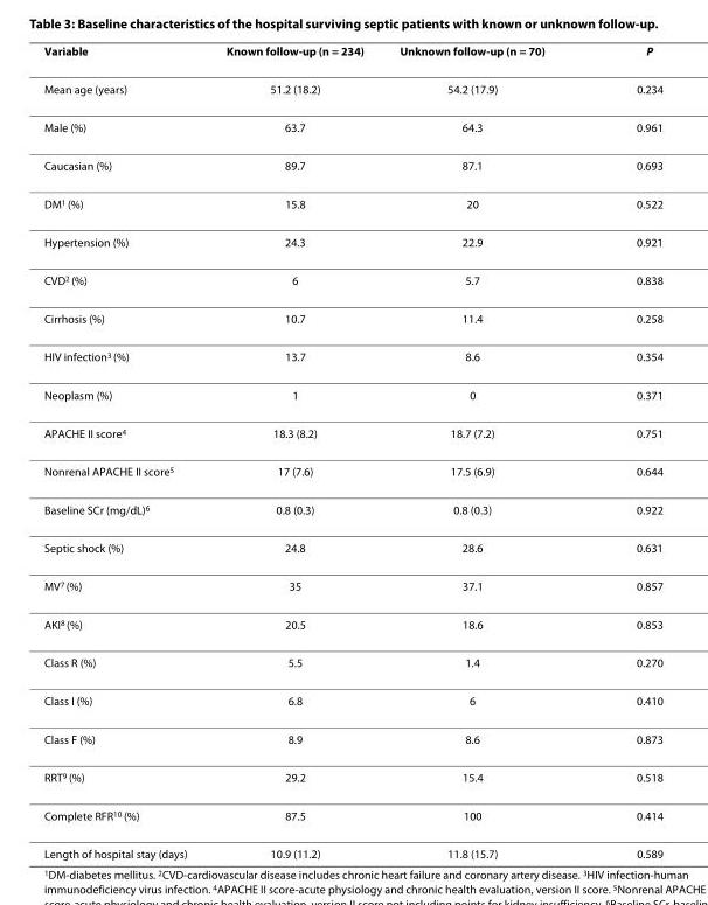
<table><thead><tr><td>Variable</td><td>Known follow-up (n = 234)</td><td>Unknown follow-up (n = 70)</td><td>P</td></tr></thead><tbody><tr><td>Mean age (years)</td><td>51.2 (18.2)</td><td>54.2 (17.9)</td><td>0.234</td></tr><tr><td>Male (%)</td><td>63.7</td><td>64.3</td><td>0.961</td></tr><tr><td>Caucasian (%)</td><td>89.7</td><td>87.1</td><td>0.693</td></tr><tr><td>DM<sup>1</sup> (%)</td><td>15.8</td><td>20</td><td>0.522</td></tr><tr><td>Hypertension (%)</td><td>24.3</td><td>22.9</td><td>0.921</td></tr><tr><td>CVD<sup>2</sup> (%)</td><td>6</td><td>5.7</td><td>0.838</td></tr><tr><td>Cirrhosis (%)</td><td>10.7</td><td>11.4</td><td>0.258</td></tr><tr><td>HIV infection<sup>3</sup> (%)</td><td>13.7</td><td>8.6</td><td>0.354</td></tr><tr><td>Neoplasm (%)</td><td>1</td><td>0</td><td>0.371</td></tr><tr><td>APACHE II score<sup>4</sup></td><td>18.3 (8.2)</td><td>18.7 (7.2)</td><td>0.751</td></tr><tr><td>Nonrenal APACHE II score<sup>5</sup></td><td>17 (7.6)</td><td>17.5 (6.9)</td><td>0.644</td></tr><tr><td>Baseline SCr (mg/dL)<sup>6</sup></td><td>0.8 (0.3)</td><td>0.8 (0.3)</td><td>0.922</td></tr><tr><td>Septic shock (%)</td><td>24.8</td><td>28.6</td><td>0.631</td></tr><tr><td>MV<sup>7</sup> (%)</td><td>35</td><td>37.1</td><td>0.857</td></tr><tr><td>AKI<sup>8</sup> (%)</td><td>20.5</td><td>18.6</td><td>0.853</td></tr><tr><td>Class R (%)</td><td>5.5</td><td>1.4</td><td>0.270</td></tr><tr><td>Class I (%)</td><td>6.8</td><td>6</td><td>0.410</td></tr><tr><td>Class F (%)</td><td>8.9</td><td>8.6</td><td>0.873</td></tr><tr><td>RRT<sup>9</sup> (%)</td><td>29.2</td><td>15.4</td><td>0.518</td></tr><tr><td>Complete RFR<sup>10</sup> (%)</td><td>87.5</td><td>100</td><td>0.414</td></tr><tr><td>Length of hospital stay (days)</td><td>10.9 (11.2)</td><td>11.8 (15.7)</td><td>0.589</td></tr></tbody></table>